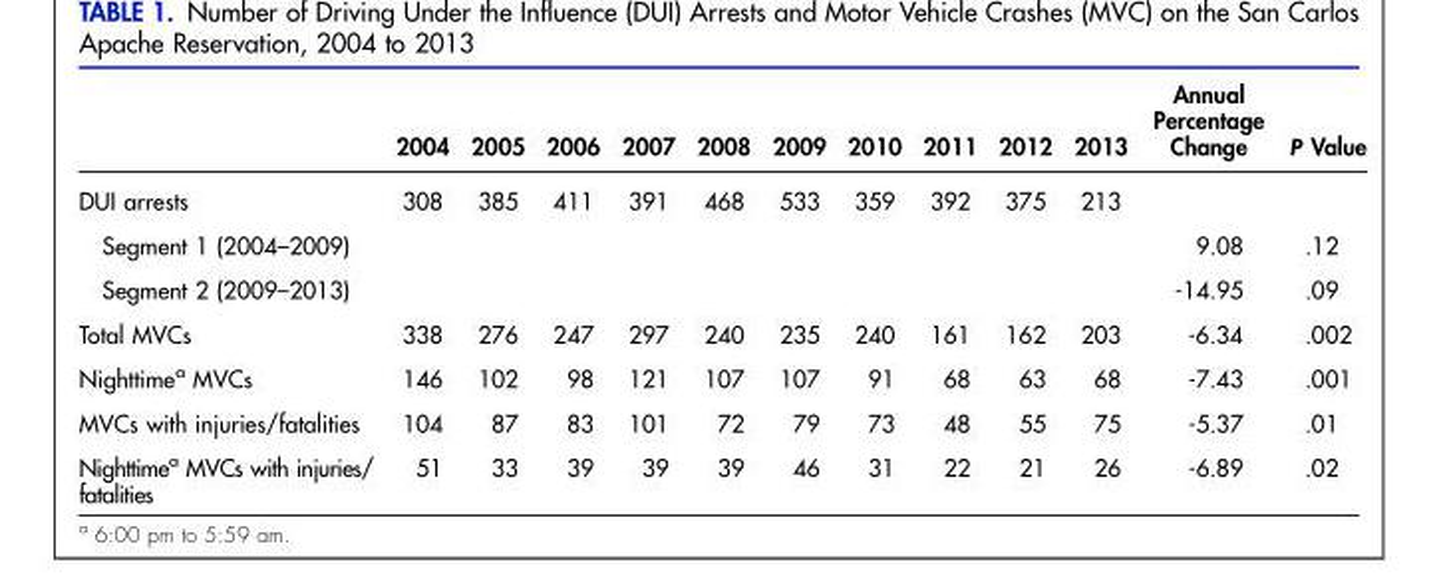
<table><thead><tr><td></td><td>2004</td><td>2005</td><td>2006</td><td>2007</td><td>2008</td><td>2009</td><td>2010</td><td>2011</td><td>2012</td><td>2013</td><td>Annual Percentage Change</td><td>P Value</td></tr></thead><tbody><tr><td>DUI arrests</td><td>308</td><td>385</td><td>411</td><td>391</td><td>468</td><td>533</td><td>359</td><td>392</td><td>375</td><td>213</td><td></td><td></td></tr><tr><td>Segment 1 (2004–2009)</td><td></td><td></td><td></td><td></td><td></td><td></td><td></td><td></td><td></td><td></td><td>9.08</td><td>.12</td></tr><tr><td>Segment 2 (2009–2013)</td><td></td><td></td><td></td><td></td><td></td><td></td><td></td><td></td><td></td><td></td><td>-14.95</td><td>.09</td></tr><tr><td>Total MVCs</td><td>338</td><td>276</td><td>247</td><td>297</td><td>240</td><td>235</td><td>240</td><td>161</td><td>162</td><td>203</td><td>-6.34</td><td>.002</td></tr><tr><td>Nighttime<sup>a</sup> MVCs</td><td>146</td><td>102</td><td>98</td><td>121</td><td>107</td><td>107</td><td>91</td><td>68</td><td>63</td><td>68</td><td>-7.43</td><td>.001</td></tr><tr><td>MVCs with injuries/fatalities</td><td>104</td><td>87</td><td>83</td><td>101</td><td>72</td><td>79</td><td>73</td><td>48</td><td>55</td><td>75</td><td>-5.37</td><td>.01</td></tr><tr><td>Nighttime<sup>a</sup> MVCs with injuries/ fatalities</td><td>51</td><td>33</td><td>39</td><td>39</td><td>39</td><td>46</td><td>31</td><td>22</td><td>21</td><td>26</td><td>-6.89</td><td>.02</td></tr></tbody></table>